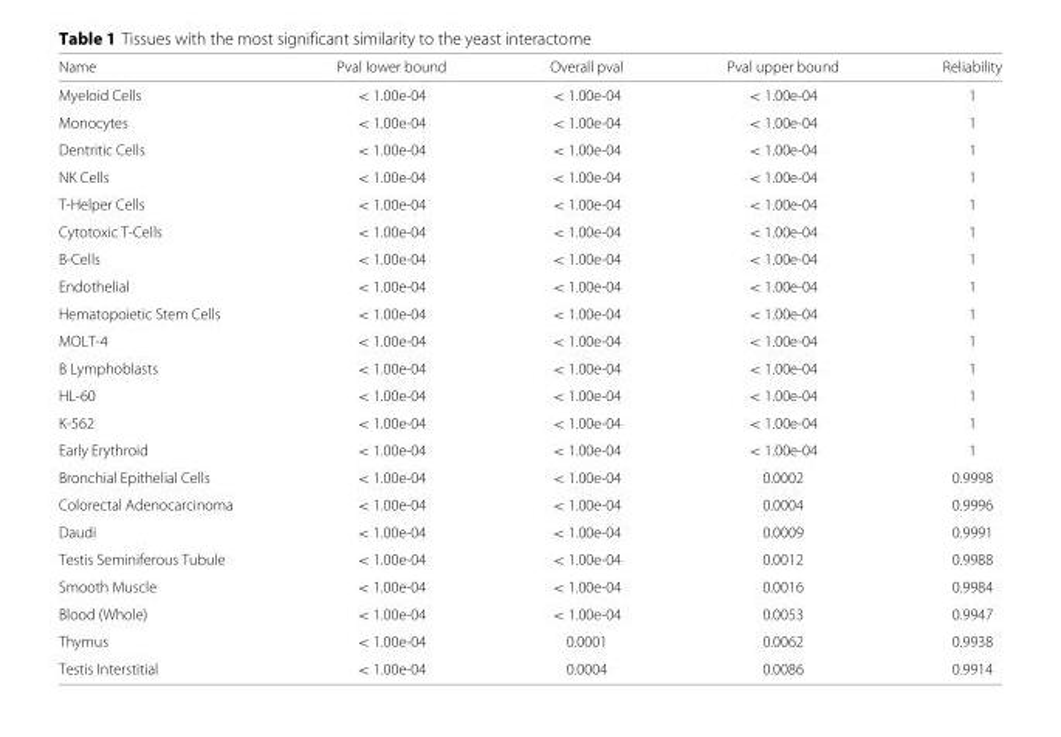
<table><thead><tr><td>Name</td><td>Pval lower bound</td><td>Overall pval</td><td>Pval upper bound</td><td>Reliability</td></tr></thead><tbody><tr><td>Myeloid Cells</td><td>&lt; 1.00e-04</td><td>&lt; 1.00e-04</td><td>&lt; 1.00e-04</td><td>1</td></tr><tr><td>Monocytes</td><td>&lt; 1.00e-04</td><td>&lt; 1.00e-04</td><td>&lt; 1.00e-04</td><td>1</td></tr><tr><td>Dentritic Cells</td><td>&lt; 1.00e-04</td><td>&lt; 1.00e-04</td><td>&lt; 1.00e-04</td><td>1</td></tr><tr><td>NK Cells</td><td>&lt; 1.00e-04</td><td>&lt; 1.00e-04</td><td>&lt; 1.00e-04</td><td>1</td></tr><tr><td>T-Helper Cells</td><td>&lt; 1.00e-04</td><td>&lt; 1.00e-04</td><td>&lt; 1.00e-04</td><td>1</td></tr><tr><td>Cytotoxic T-Cells</td><td>&lt; 1.00e-04</td><td>&lt; 1.00e-04</td><td>&lt; 1.00e-04</td><td>1</td></tr><tr><td>B-Cells</td><td>&lt; 1.00e-04</td><td>&lt; 1.00e-04</td><td>&lt; 1.00e-04</td><td>1</td></tr><tr><td>Endothelial</td><td>&lt; 1.00e-04</td><td>&lt; 1.00e-04</td><td>&lt; 1.00e-04</td><td>1</td></tr><tr><td>Hematopoietic Stem Cells</td><td>&lt; 1.00e-04</td><td>&lt; 1.00e-04</td><td>&lt; 1.00e-04</td><td>1</td></tr><tr><td>MOLT-4</td><td>&lt; 1.00e-04</td><td>&lt; 1.00e-04</td><td>&lt; 1.00e-04</td><td>1</td></tr><tr><td>B Lymphoblasts</td><td>&lt; 1.00e-04</td><td>&lt; 1.00e-04</td><td>&lt; 1.00e-04</td><td>1</td></tr><tr><td>HL-60</td><td>&lt; 1.00e-04</td><td>&lt; 1.00e-04</td><td>&lt; 1.00e-04</td><td>1</td></tr><tr><td>K-562</td><td>&lt; 1.00e-04</td><td>&lt; 1.00e-04</td><td>&lt; 1.00e-04</td><td>1</td></tr><tr><td>Early Erythroid</td><td>&lt; 1.00e-04</td><td>&lt; 1.00e-04</td><td>&lt; 1.00e-04</td><td>1</td></tr><tr><td>Bronchial Epithelial Cells</td><td>&lt; 1.00e-04</td><td>&lt; 1.00e-04</td><td>0.0002</td><td>0.9998</td></tr><tr><td>Colorectal Adenocarcinoma</td><td>&lt; 1.00e-04</td><td>&lt; 1.00e-04</td><td>0.0004</td><td>0.9996</td></tr><tr><td>Daudi</td><td>&lt; 1.00e-04</td><td>&lt; 1.00e-04</td><td>0.0009</td><td>0.9991</td></tr><tr><td>Testis Seminiferous Tubule</td><td>&lt; 1.00e-04</td><td>&lt; 1.00e-04</td><td>0.0012</td><td>0.9988</td></tr><tr><td>Smooth Muscle</td><td>&lt; 1.00e-04</td><td>&lt; 1.00e-04</td><td>0.0016</td><td>0.9984</td></tr><tr><td>Blood (Whole)</td><td>&lt; 1.00e-04</td><td>&lt; 1.00e-04</td><td>0.0053</td><td>0.9947</td></tr><tr><td>Thymus</td><td>&lt; 1.00e-04</td><td>0.0001</td><td>0.0062</td><td>0.9938</td></tr><tr><td>Testis Interstitial</td><td>&lt; 1.00e-04</td><td>0.0004</td><td>0.0086</td><td>0.9914</td></tr></tbody></table>